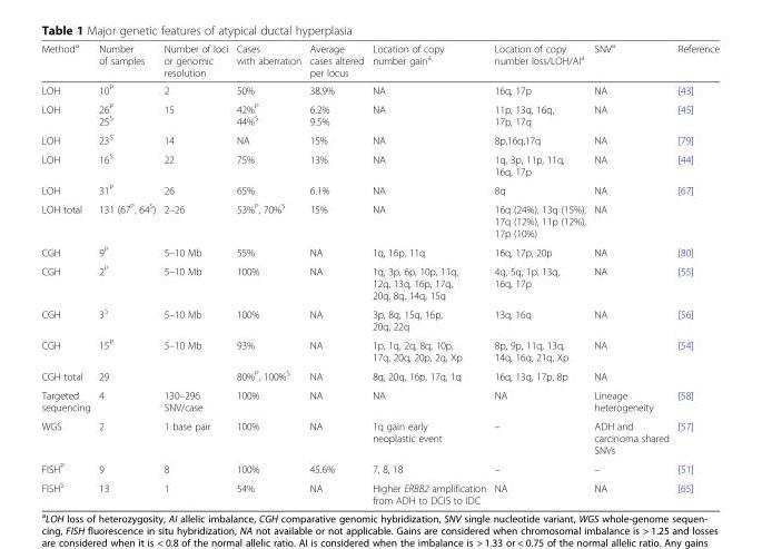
<table><thead><tr><td>Method<sup>a</sup></td><td>Number of samples</td><td>Number of loci or genomic resolution</td><td>Cases with aberration</td><td>Average cases altered per locus</td><td>Location of copy number gain<sup>a</sup></td><td>Location of copy number loss/LOH/AI<sup>a</sup></td><td>SNV<sup>a</sup></td><td>Reference</td></tr></thead><tbody><tr><td>LOH</td><td>10<sup>P</sup></td><td>2</td><td>50%</td><td>38.9%</td><td>NA</td><td>16q, 17p</td><td>NA</td><td>[43]</td></tr><tr><td>LOH</td><td>26<sup>P</sup> 25<sup>S</sup></td><td>15</td><td>42%<sup>P</sup> 44%<sup>S</sup></td><td>6.2% 9.5%</td><td>NA</td><td>11p, 13q, 16q, 17p, 17q</td><td>NA</td><td>[45]</td></tr><tr><td>LOH</td><td>23<sup>S</sup></td><td>14</td><td>NA</td><td>15%</td><td>NA</td><td>8p,16q,17q</td><td>NA</td><td>[79]</td></tr><tr><td>LOH</td><td>16<sup>S</sup></td><td>22</td><td>75%</td><td>13%</td><td>NA</td><td>1q, 3p, 11p, 11q, 16q, 17p</td><td>NA</td><td>[44]</td></tr><tr><td>LOH</td><td>31<sup>P</sup></td><td>26</td><td>65%</td><td>6.1%</td><td>NA</td><td>8q</td><td>NA</td><td>[67]</td></tr><tr><td>LOH total</td><td>131 (67<sup>P</sup>, 64<sup>S</sup>)</td><td>2–26</td><td>53%<sup>P</sup>, 70%<sup>S</sup></td><td>15%</td><td>NA</td><td>16q (24%), 13q (15%), 17q (12%), 11p (12%), 17p (10%)</td><td>NA</td><td></td></tr><tr><td>CGH</td><td>9<sup>P</sup></td><td>5–10 Mb</td><td>55%</td><td>NA</td><td>1q, 16p, 11q</td><td>16q, 17p, 20p</td><td>NA</td><td>[80]</td></tr><tr><td>CGH</td><td>2<sup>P</sup></td><td>5–10 Mb</td><td>100%</td><td>NA</td><td>1q, 3p, 6p, 10p, 11q, 12q, 13q, 16p, 17q, 20q, 8q, 14q, 15q</td><td>4q, 5q, 1p, 13q, 16q, 17p</td><td>NA</td><td>[55]</td></tr><tr><td>CGH</td><td>3<sup>S</sup></td><td>5–10 Mb</td><td>100%</td><td>NA</td><td>3p, 8q, 15q, 16p, 20q, 22q</td><td>13q, 16q</td><td>NA</td><td>[56]</td></tr><tr><td>CGH</td><td>15<sup>P</sup></td><td>5–10 Mb</td><td>93%</td><td>NA</td><td>1p, 1q, 2q, 8q, 10p, 17q, 20q, 20p, 2q, Xp</td><td>8p, 9p, 11q, 13q, 14q, 16q, 21q, Xp</td><td>NA</td><td>[54]</td></tr><tr><td>CGH total</td><td>29</td><td></td><td>80%<sup>P</sup>, 100%<sup>S</sup></td><td>NA</td><td>8q, 20q, 16p, 17q, 1q</td><td>16q, 13q, 17p, 8p</td><td>NA</td><td></td></tr><tr><td>Targeted sequencing</td><td>4</td><td>130–296 SNV/case</td><td>100%</td><td>NA</td><td>NA</td><td>NA</td><td>Lineage heterogeneity</td><td>[58]</td></tr><tr><td>WGS</td><td>2</td><td>1 base pair</td><td>100%</td><td>NA</td><td>1q gain early neoplastic event</td><td>–</td><td>ADH and carcinoma shared SNVs</td><td>[57]</td></tr><tr><td>FISH<sup>P</sup></td><td>9</td><td>8</td><td>100%</td><td>45.6%</td><td>7, 8, 18</td><td>–</td><td>–</td><td>[51]</td></tr><tr><td>FISH<sup>S</sup></td><td>13</td><td>1</td><td>54%</td><td>NA</td><td>Higher ERBB2 amplification from ADH to DCIS to IDC</td><td>NA</td><td>NA</td><td>[65]</td></tr></tbody></table>